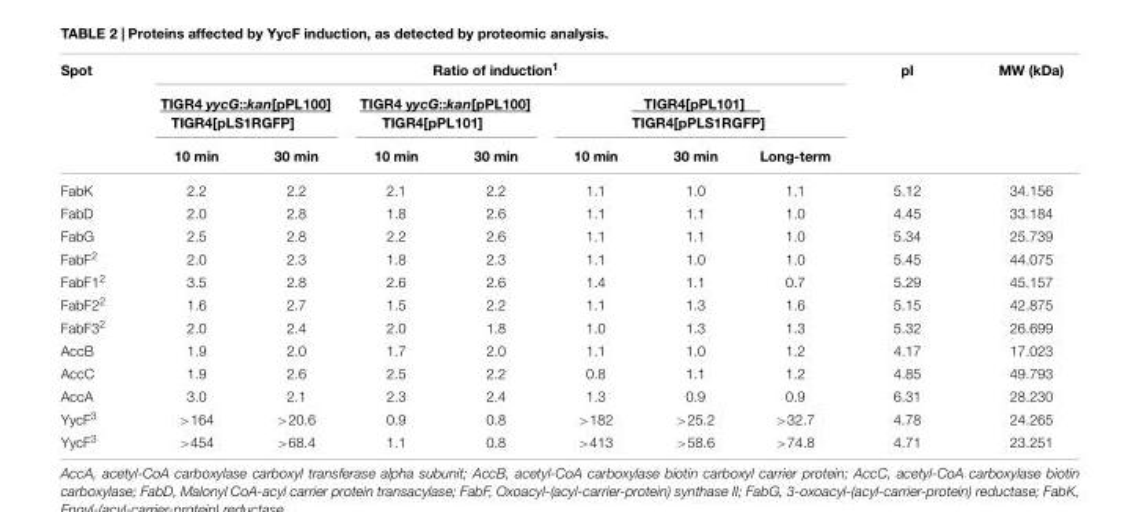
<table><thead><tr><td rowspan="3">Spot</td><td colspan="7">Ratio of induction<sup>1</sup></td><td rowspan="3">pI</td><td rowspan="3">MW (kDa)</td></tr><tr><td colspan="2">TIGR4 yycG::kan[pPL100] TIGR4[pLS1RGFP]</td><td colspan="2">TIGR4 yycG::kan[pPL100] TIGR4[pPL101]</td><td colspan="3">TIGR4[pPL101] TIGR4[pPLS1RGFP]</td></tr><tr><td>10 min</td><td>30 min</td><td>10 min</td><td>30 min</td><td>10 min</td><td>30 min</td><td>Long-term</td></tr></thead><tbody><tr><td>FabK</td><td>2.2</td><td>2.2</td><td>2.1</td><td>2.2</td><td>1.1</td><td>1.0</td><td>1.1</td><td>5.12</td><td>34.156</td></tr><tr><td>FabD</td><td>2.0</td><td>2.8</td><td>1.8</td><td>2.6</td><td>1.1</td><td>1.1</td><td>1.0</td><td>4.45</td><td>33.184</td></tr><tr><td>FabG</td><td>2.5</td><td>2.8</td><td>2.2</td><td>2.6</td><td>1.1</td><td>1.1</td><td>1.0</td><td>5.34</td><td>25.739</td></tr><tr><td>FabF<sup>2</sup></td><td>2.0</td><td>2.3</td><td>1.8</td><td>2.3</td><td>1.1</td><td>1.0</td><td>1.0</td><td>5.45</td><td>44.075</td></tr><tr><td>FabF1<sup>2</sup></td><td>3.5</td><td>2.8</td><td>2.6</td><td>2.6</td><td>1.4</td><td>1.1</td><td>0.7</td><td>5.29</td><td>45.157</td></tr><tr><td>FabF2<sup>2</sup></td><td>1.6</td><td>2.7</td><td>1.5</td><td>2.2</td><td>1.1</td><td>1.3</td><td>1.6</td><td>5.15</td><td>42.875</td></tr><tr><td>FabF3<sup>2</sup></td><td>2.0</td><td>2.4</td><td>2.0</td><td>1.8</td><td>1.0</td><td>1.3</td><td>1.3</td><td>5.32</td><td>26.699</td></tr><tr><td>AccB</td><td>1.9</td><td>2.0</td><td>1.7</td><td>2.0</td><td>1.1</td><td>1.0</td><td>1.2</td><td>4.17</td><td>17.023</td></tr><tr><td>AccC</td><td>1.9</td><td>2.6</td><td>2.5</td><td>2.2</td><td>0.8</td><td>1.1</td><td>1.2</td><td>4.85</td><td>49.793</td></tr><tr><td>AccA</td><td>3.0</td><td>2.1</td><td>2.3</td><td>2.4</td><td>1.3</td><td>0.9</td><td>0.9</td><td>6.31</td><td>28.230</td></tr><tr><td>YycF<sup>3</sup></td><td>&gt;164</td><td>&gt;20.6</td><td>0.9</td><td>0.8</td><td>&gt;182</td><td>&gt;25.2</td><td>&gt;32.7</td><td>4.78</td><td>24.265</td></tr><tr><td>YycF<sup>3</sup></td><td>&gt;454</td><td>&gt;68.4</td><td>1.1</td><td>0.8</td><td>&gt;413</td><td>&gt;58.6</td><td>&gt;74.8</td><td>4.71</td><td>23.251</td></tr></tbody></table>